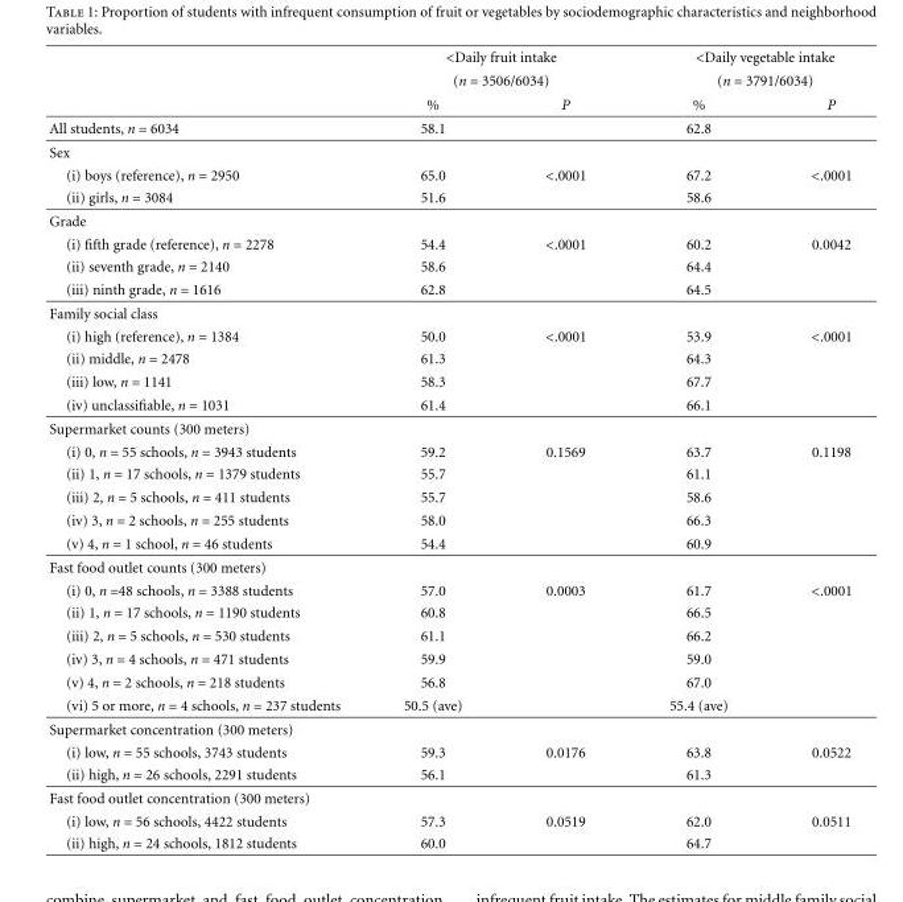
<table><thead><tr><td rowspan="3"></td><td rowspan="2" colspan="2">&lt;Daily fruit intake (n = 3506/6034)</td><td rowspan="2" colspan="2">&lt;Daily vegetable intake (n = 3791/6034)</td></tr><tr></tr><tr><td>%</td><td>P</td><td>%</td><td>P</td></tr></thead><tbody><tr><td>All students, n = 6034</td><td>58.1</td><td></td><td>62.8</td><td></td></tr><tr><td colspan="5">Sex</td></tr><tr><td>(i) boys (reference), n = 2950</td><td>65.0</td><td>&lt;.0001</td><td>67.2</td><td>&lt;.0001</td></tr><tr><td>(ii) girls, n = 3084</td><td>51.6</td><td></td><td>58.6</td><td></td></tr><tr><td colspan="5">Grade</td></tr><tr><td>(i) fifth grade (reference), n = 2278</td><td>54.4</td><td>&lt;.0001</td><td>60.2</td><td>0.0042</td></tr><tr><td>(ii) seventh grade, n = 2140</td><td>58.6</td><td></td><td>64.4</td><td></td></tr><tr><td>(iii) ninth grade, n = 1616</td><td>62.8</td><td></td><td>64.5</td><td></td></tr><tr><td colspan="5">Family social class</td></tr><tr><td>(i) high (reference), n = 1384</td><td>50.0</td><td>&lt;.0001</td><td>53.9</td><td>&lt;.0001</td></tr><tr><td>(ii) middle, n = 2478</td><td>61.3</td><td></td><td>64.3</td><td></td></tr><tr><td>(iii) low, n = 1141</td><td>58.3</td><td></td><td>67.7</td><td></td></tr><tr><td>(iv) unclassifiable, n = 1031</td><td>61.4</td><td></td><td>66.1</td><td></td></tr><tr><td colspan="5">Supermarket counts (300 meters)</td></tr><tr><td>(i) 0, n = 55 schools, n = 3943 students</td><td>59.2</td><td>0.1569</td><td>63.7</td><td>0.1198</td></tr><tr><td>(ii) 1, n = 17 schools, n = 1379 students</td><td>55.7</td><td></td><td>61.1</td><td></td></tr><tr><td>(iii) 2, n = 5 schools, n = 411 students</td><td>55.7</td><td></td><td>58.6</td><td></td></tr><tr><td>(iv) 3, n = 2 schools, n = 255 students</td><td>58.0</td><td></td><td>66.3</td><td></td></tr><tr><td>(v) 4, n = 1 school, n = 46 students</td><td>54.4</td><td></td><td>60.9</td><td></td></tr><tr><td colspan="5">Fast food outlet counts (300 meters)</td></tr><tr><td>(i) 0, n =48 schools, n = 3388 students</td><td>57.0</td><td>0.0003</td><td>61.7</td><td>&lt;.0001</td></tr><tr><td>(ii) 1, n = 17 schools, n = 1190 students</td><td>60.8</td><td></td><td>66.5</td><td></td></tr><tr><td>(iii) 2, n = 5 schools, n = 530 students</td><td>61.1</td><td></td><td>66.2</td><td></td></tr><tr><td>(iv) 3, n = 4 schools, n = 471 students</td><td>59.9</td><td></td><td>59.0</td><td></td></tr><tr><td>(v) 4, n = 2 schools, n = 218 students</td><td>56.8</td><td></td><td>67.0</td><td></td></tr><tr><td>(vi) 5 or more, n = 4 schools, n = 237 students</td><td>50.5 (ave)</td><td></td><td>55.4 (ave)</td><td></td></tr><tr><td colspan="5">Supermarket concentration (300 meters)</td></tr><tr><td>(i) low, n = 55 schools, 3743 students</td><td>59.3</td><td>0.0176</td><td>63.8</td><td>0.0522</td></tr><tr><td>(ii) high, n = 26 schools, 2291 students</td><td>56.1</td><td></td><td>61.3</td><td></td></tr><tr><td colspan="5">Fast food outlet concentration (300 meters)</td></tr><tr><td>(i) low, n = 56 schools, 4422 students</td><td>57.3</td><td>0.0519</td><td>62.0</td><td>0.0511</td></tr><tr><td>(ii) high, n = 24 schools, 1812 students</td><td>60.0</td><td></td><td>64.7</td><td></td></tr></tbody></table>